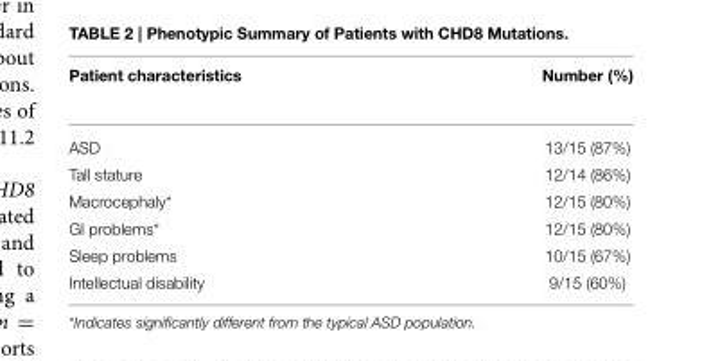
<table><thead><tr><td>Patient characteristics</td><td>Number (%)</td></tr></thead><tbody><tr><td>ASD</td><td>13/15 (87%)</td></tr><tr><td>Tall stature</td><td>12/14 (86%)</td></tr><tr><td>Macrocephaly*</td><td>12/15 (80%)</td></tr><tr><td>GI problems*</td><td>12/15 (80%)</td></tr><tr><td>Sleep problems</td><td>10/15 (67%)</td></tr><tr><td>Intellectual disability</td><td>9/15 (60%)</td></tr></tbody></table>